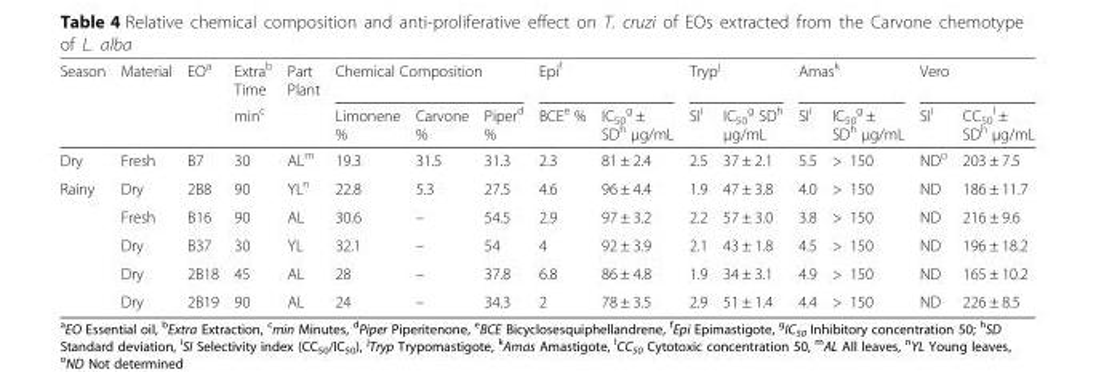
<table><thead><tr><td rowspan="2">Season</td><td rowspan="2">Material</td><td rowspan="2">EO<sup>a</sup></td><td rowspan="2">Extra<sup>b</sup> Time min<sup>c</sup></td><td rowspan="2">Part Plant</td><td colspan="3">Chemical Composition</td><td colspan="2">Epi<sup>f</sup></td><td colspan="2">Tryp<sup>j</sup></td><td colspan="2">Amas<sup>k</sup></td><td colspan="2">Vero</td></tr><tr><td>Limonene %</td><td>Carvone %</td><td>Piper<sup>d</sup> %</td><td>BCE<sup>e</sup> %</td><td>IC<sub>50</sub> <sup>g</sup> ± SD<sup>h</sup> μg/mL</td><td>SI<sup>i</sup></td><td>IC<sub>50</sub> <sup>g</sup> SD<sup>h</sup> μg/mL</td><td>SI<sup>i</sup></td><td>IC<sub>50</sub> <sup>g</sup> ± SD<sup>h</sup> μg/mL</td><td>SI<sup>i</sup></td><td>CC<sub>50</sub> <sup>l</sup> ± SD<sup>h</sup> μg/mL</td></tr></thead><tbody><tr><td>Dry</td><td>Fresh</td><td>B7</td><td>30</td><td>AL<sup>m</sup></td><td>19.3</td><td>31.5</td><td>31.3</td><td>2.3</td><td>81 ± 2.4</td><td>2.5</td><td>37 ± 2.1</td><td>5.5</td><td>&gt; 150</td><td>ND<sup>o</sup></td><td>203 ± 7.5</td></tr><tr><td rowspan="5">Rainy</td><td>Dry</td><td>2B8</td><td>90</td><td>YL<sup>n</sup></td><td>22.8</td><td>5.3</td><td>27.5</td><td>4.6</td><td>96 ± 4.4</td><td>1.9</td><td>47 ± 3.8</td><td>4.0</td><td>&gt; 150</td><td>ND</td><td>186 ± 11.7</td></tr><tr><td>Fresh</td><td>B16</td><td>90</td><td>AL</td><td>30.6</td><td>–</td><td>54.5</td><td>2.9</td><td>97 ± 3.2</td><td>2.2</td><td>57 ± 3.0</td><td>3.8</td><td>&gt; 150</td><td>ND</td><td>216 ± 9.6</td></tr><tr><td>Dry</td><td>B37</td><td>30</td><td>YL</td><td>32.1</td><td>–</td><td>54</td><td>4</td><td>92 ± 3.9</td><td>2.1</td><td>43 ± 1.8</td><td>4.5</td><td>&gt; 150</td><td>ND</td><td>196 ± 18.2</td></tr><tr><td>Dry</td><td>2B18</td><td>45</td><td>AL</td><td>28</td><td>–</td><td>37.8</td><td>6.8</td><td>86 ± 4.8</td><td>1.9</td><td>34 ± 3.1</td><td>4.9</td><td>&gt; 150</td><td>ND</td><td>165 ± 10.2</td></tr><tr><td>Dry</td><td>2B19</td><td>90</td><td>AL</td><td>24</td><td>–</td><td>34.3</td><td>2</td><td>78 ± 3.5</td><td>2.9</td><td>51 ± 1.4</td><td>4.4</td><td>&gt; 150</td><td>ND</td><td>226 ± 8.5</td></tr></tbody></table>